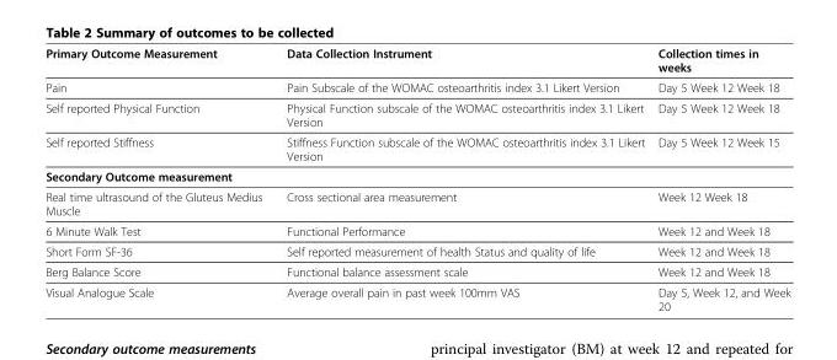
<table><thead><tr><td>Primary Outcome Measurement</td><td>Data Collection Instrument</td><td>Collection times in weeks</td></tr></thead><tbody><tr><td>Pain</td><td>Pain Subscale of the WOMAC osteoarthritis index 3.1 Likert Version</td><td>Day 5 Week 12 Week 18</td></tr><tr><td>Self reported Physical Function</td><td>Physical Function subscale of the WOMAC osteoarthritis index 3.1 Likert Version</td><td>Day 5 Week 12 Week 18</td></tr><tr><td>Self reported Stiffness</td><td>Stiffness Function subscale of the WOMAC osteoarthritis index 3.1 Likert Version</td><td>Day 5 Week 12 Week 15</td></tr><tr><td colspan="3">Secondary Outcome measurement</td></tr><tr><td>Real time ultrasound of the Gluteus Medius Muscle</td><td>Cross sectional area measurement</td><td>Week 12 Week 18</td></tr><tr><td>6 Minute Walk Test</td><td>Functional Performance</td><td>Week 12 and Week 18</td></tr><tr><td>Short Form SF-36</td><td>Self reported measurement of health Status and quality of life</td><td>Week 12 and Week 18</td></tr><tr><td>Berg Balance Score</td><td>Functional balance assessment scale</td><td>Week 12 and Week 18</td></tr><tr><td>Visual Analogue Scale</td><td>Average overall pain in past week 100mm VAS</td><td>Day 5, Week 12, and Week 20</td></tr></tbody></table>